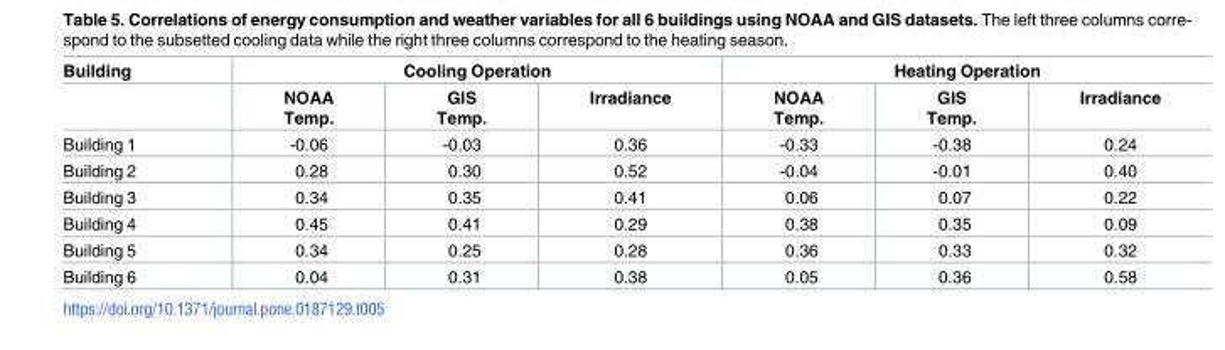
<table><thead><tr><td rowspan="2">Building</td><td colspan="3">Cooling Operation</td><td colspan="3">Heating Operation</td></tr><tr><td>NOAA Temp.</td><td>GIS Temp.</td><td>Irradiance</td><td>NOAA Temp.</td><td>GIS Temp.</td><td>Irradiance</td></tr></thead><tbody><tr><td>Building 1</td><td>-0.06</td><td>-0.03</td><td>0.36</td><td>-0.33</td><td>-0.38</td><td>0.24</td></tr><tr><td>Building 2</td><td>0.28</td><td>0.30</td><td>0.52</td><td>-0.04</td><td>-0.01</td><td>0.40</td></tr><tr><td>Building 3</td><td>0.34</td><td>0.35</td><td>0.41</td><td>0.06</td><td>0.07</td><td>0.22</td></tr><tr><td>Building 4</td><td>0.45</td><td>0.41</td><td>0.29</td><td>0.38</td><td>0.35</td><td>0.09</td></tr><tr><td>Building 5</td><td>0.34</td><td>0.25</td><td>0.28</td><td>0.36</td><td>0.33</td><td>0.32</td></tr><tr><td>Building 6</td><td>0.04</td><td>0.31</td><td>0.38</td><td>0.05</td><td>0.36</td><td>0.58</td></tr></tbody></table>